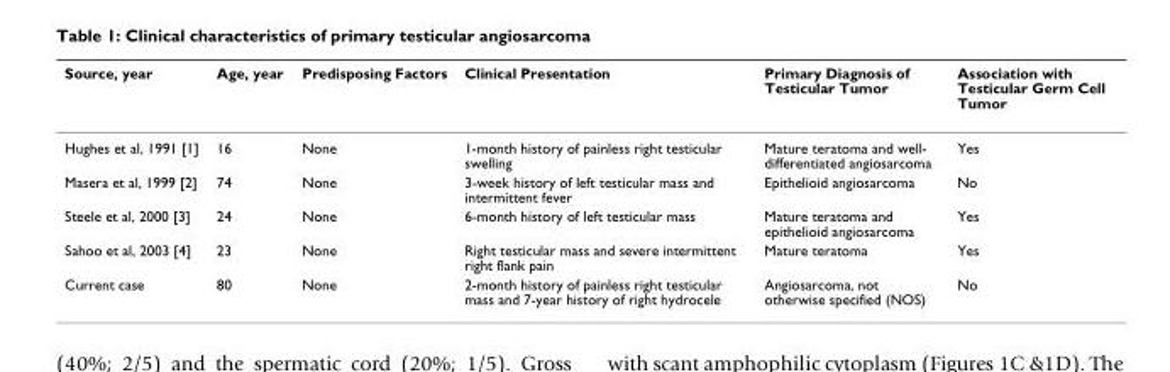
<table><thead><tr><td>Source, year</td><td>Age, year</td><td>Predisposing Factors</td><td>Clinical Presentation</td><td>Primary Diagnosis of Testicular Tumor</td><td>Association with Testicular Germ Cell Tumor</td></tr></thead><tbody><tr><td>Hughes et al, 1991 [1]</td><td>16</td><td>None</td><td>1-month history of painless right testicular swelling</td><td>Mature teratoma and well- differentiated angiosarcoma</td><td>Yes</td></tr><tr><td>Masera et al, 1999 [2]</td><td>74</td><td>None</td><td>3-week history of left testicular mass and intermittent fever</td><td>Epithelioid angiosarcoma</td><td>No</td></tr><tr><td>Steele et al, 2000 [3]</td><td>24</td><td>None</td><td>6-month history of left testicular mass</td><td>Mature teratoma and epithelioid angiosarcoma</td><td>Yes</td></tr><tr><td>Sahoo et al, 2003 [4]</td><td>23</td><td>None</td><td>Right testicular mass and severe intermittent right flank pain</td><td>Mature teratoma</td><td>Yes</td></tr><tr><td>Current case</td><td>80</td><td>None</td><td>2-month history of painless right testicular mass and 7-year history of right hydrocele</td><td>Angiosarcoma, not otherwise specified (NOS)</td><td>No</td></tr></tbody></table>